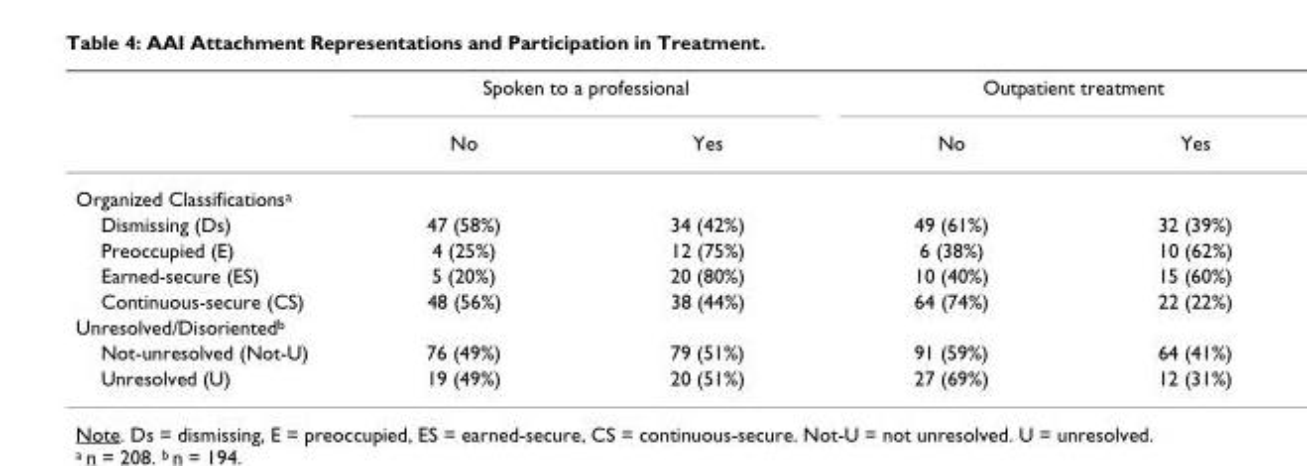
<table><thead><tr><td rowspan="2"></td><td colspan="2">Spoken to a professional</td><td colspan="2">Outpatient treatment</td></tr><tr><td>No</td><td>Yes</td><td>No</td><td>Yes</td></tr></thead><tbody><tr><td colspan="5">Organized Classifications<sup>a</sup></td></tr><tr><td>Dismissing (Ds)</td><td>47 (58%)</td><td>34 (42%)</td><td>49 (61%)</td><td>32 (39%)</td></tr><tr><td>Preoccupied (E)</td><td>4 (25%)</td><td>12 (75%)</td><td>6 (38%)</td><td>10 (62%)</td></tr><tr><td>Earned-secure (ES)</td><td>5 (20%)</td><td>20 (80%)</td><td>10 (40%)</td><td>15 (60%)</td></tr><tr><td>Continuous-secure (CS)</td><td>48 (56%)</td><td>38 (44%)</td><td>64 (74%)</td><td>22 (22%)</td></tr><tr><td colspan="5">Unresolved/Disoriented<sup>b</sup></td></tr><tr><td>Not-unresolved (Not-U)</td><td>76 (49%)</td><td>79 (51%)</td><td>91 (59%)</td><td>64 (41%)</td></tr><tr><td>Unresolved (U)</td><td>19 (49%)</td><td>20 (51%)</td><td>27 (69%)</td><td>12 (31%)</td></tr></tbody></table>